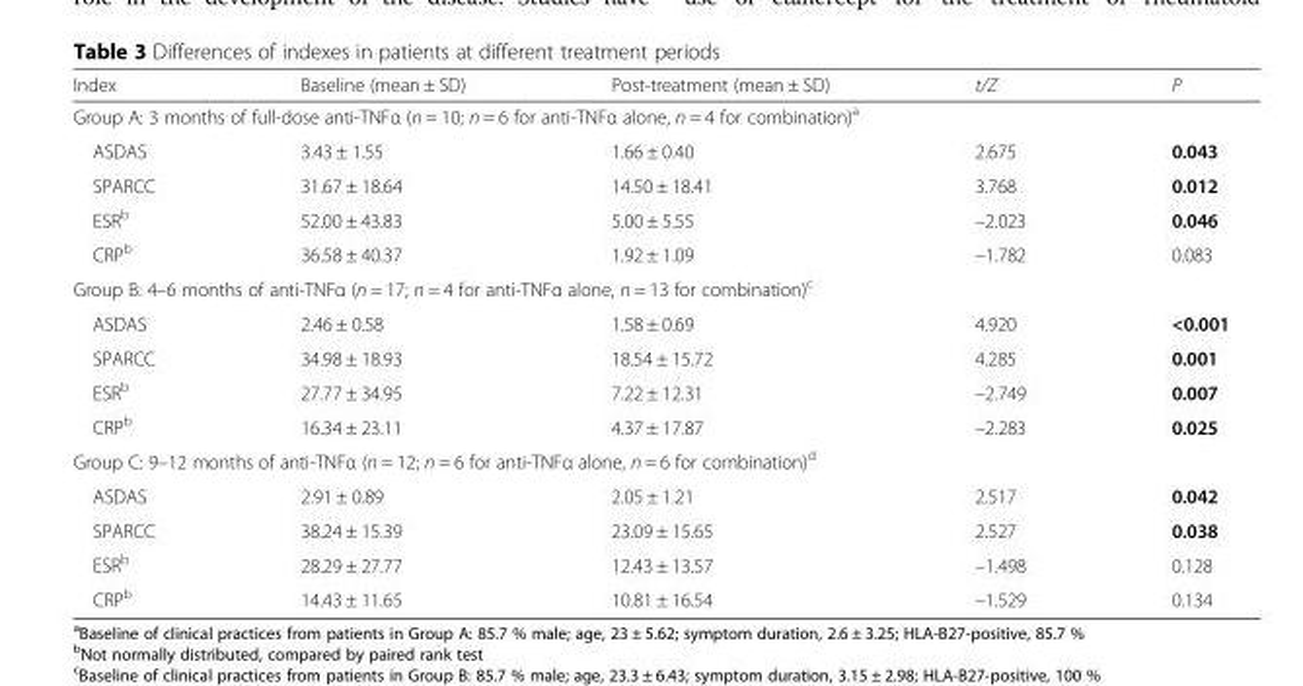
<table><thead><tr><td>Index</td><td>Baseline (mean ± SD)</td><td>Post-treatment (mean ± SD)</td><td>t/Z</td><td>P</td></tr></thead><tbody><tr><td colspan="5">Group A: 3 months of full-dose anti-TNFα (n = 10; n = 6 for anti-TNFα alone, n = 4 for combination)<sup>a</sup></td></tr><tr><td>ASDAS</td><td>3.43 ± 1.55</td><td>1.66 ± 0.40</td><td>2.675</td><td>0.043</td></tr><tr><td>SPARCC</td><td>31.67 ± 18.64</td><td>14.50 ± 18.41</td><td>3.768</td><td>0.012</td></tr><tr><td>ESR<sup>b</sup></td><td>52.00 ± 43.83</td><td>5.00 ± 5.55</td><td>–2.023</td><td>0.046</td></tr><tr><td>CRP<sup>b</sup></td><td>36.58 ± 40.37</td><td>1.92 ± 1.09</td><td>–1.782</td><td>0.083</td></tr><tr><td colspan="5">Group B: 4–6 months of anti-TNFα (n = 17; n = 4 for anti-TNFα alone, n = 13 for combination)<sup>c</sup></td></tr><tr><td>ASDAS</td><td>2.46 ± 0.58</td><td>1.58 ± 0.69</td><td>4.920</td><td>&lt;0.001</td></tr><tr><td>SPARCC</td><td>34.98 ± 18.93</td><td>18.54 ± 15.72</td><td>4.285</td><td>0.001</td></tr><tr><td>ESR<sup>b</sup></td><td>27.77 ± 34.95</td><td>7.22 ± 12.31</td><td>–2.749</td><td>0.007</td></tr><tr><td>CRP<sup>b</sup></td><td>16.34 ± 23.11</td><td>4.37 ± 17.87</td><td>–2.283</td><td>0.025</td></tr><tr><td colspan="5">Group C: 9–12 months of anti-TNFα (n = 12; n = 6 for anti-TNFα alone, n = 6 for combination)<sup>d</sup></td></tr><tr><td>ASDAS</td><td>2.91 ± 0.89</td><td>2.05 ± 1.21</td><td>2.517</td><td>0.042</td></tr><tr><td>SPARCC</td><td>38.24 ± 15.39</td><td>23.09 ± 15.65</td><td>2.527</td><td>0.038</td></tr><tr><td>ESR<sup>b</sup></td><td>28.29 ± 27.77</td><td>12.43 ± 13.57</td><td>–1.498</td><td>0.128</td></tr><tr><td>CRP<sup>b</sup></td><td>14.43 ± 11.65</td><td>10.81 ± 16.54</td><td>–1.529</td><td>0.134</td></tr></tbody></table>